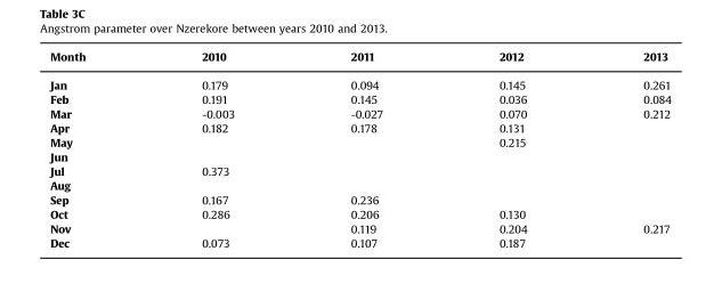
<table><thead><tr><td>Month</td><td>2010</td><td>2011</td><td>2012</td><td>2013</td></tr></thead><tbody><tr><td>Jan</td><td>0.179</td><td>0.094</td><td>0.145</td><td>0.261</td></tr><tr><td>Feb</td><td>0.191</td><td>0.145</td><td>0.036</td><td>0.084</td></tr><tr><td>Mar</td><td>-0.003</td><td>-0.027</td><td>0.070</td><td>0.212</td></tr><tr><td>Apr</td><td>0.182</td><td>0.178</td><td>0.131</td><td></td></tr><tr><td>May</td><td></td><td></td><td>0.215</td><td></td></tr><tr><td colspan="5">Jun</td></tr><tr><td>Jul</td><td>0.373</td><td></td><td></td><td></td></tr><tr><td colspan="5">Aug</td></tr><tr><td>Sep</td><td>0.167</td><td>0.236</td><td></td><td></td></tr><tr><td>Oct</td><td>0.286</td><td>0.206</td><td>0.130</td><td></td></tr><tr><td>Nov</td><td></td><td>0.119</td><td>0.204</td><td>0.217</td></tr><tr><td>Dec</td><td>0.073</td><td>0.107</td><td>0.187</td><td></td></tr></tbody></table>